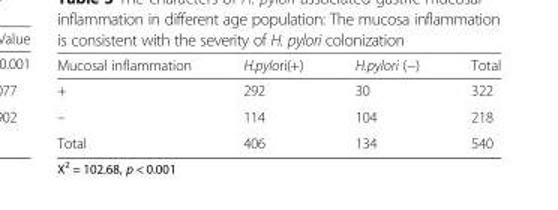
<table><thead><tr><td>Mucosal inflammation</td><td>H.pylori(+)</td><td>H.pylori (−)</td><td>Total</td></tr></thead><tbody><tr><td>+</td><td>292</td><td>30</td><td>322</td></tr><tr><td>–</td><td>114</td><td>104</td><td>218</td></tr><tr><td>Total</td><td>406</td><td>134</td><td>540</td></tr></tbody></table>